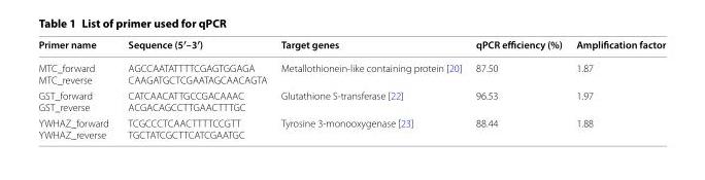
<table><thead><tr><td>Primer name</td><td>Sequence (5′–3′)</td><td>Target genes</td><td>qPCR efficiency (%)</td><td>Amplification factor</td></tr></thead><tbody><tr><td>MTC_forward MTC_reverse</td><td>AGCCAATATTTTCGAGTGGAGA CAAGATGCTCGAATAGCAACAGTA</td><td>Metallothionein-like containing protein [20]</td><td>87.50</td><td>1.87</td></tr><tr><td>GST_forward GST_reverse</td><td>CATCAACATTGCCGACAAAC ACGACAGCCTTGAACTTTGC</td><td>Glutathione S-transferase [22]</td><td>96.53</td><td>1.97</td></tr><tr><td>YWHAZ_forward YWHAZ_reverse</td><td>TCGCCCTCAACTTTTCCGTT TGCTATCGCTTCATCGAATGC</td><td>Tyrosine 3-monooxygenase [23]</td><td>88.44</td><td>1.88</td></tr></tbody></table>